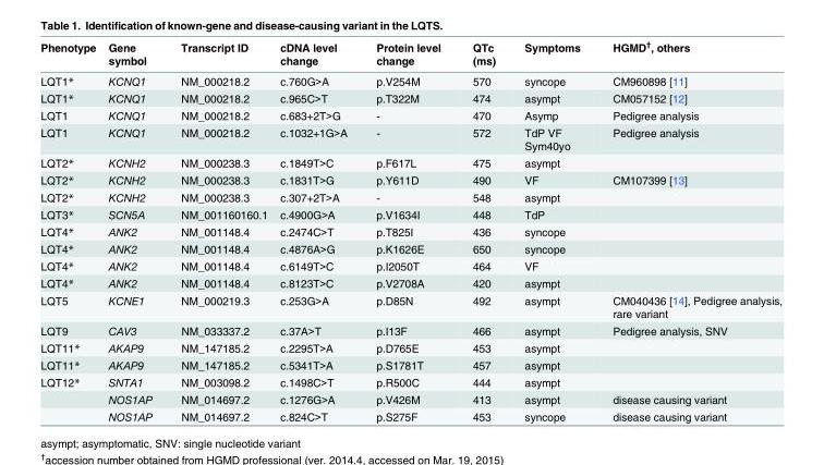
<table><thead><tr><td>Phenotype</td><td>Gene symbol</td><td>Transcript ID</td><td>cDNA level change</td><td>Protein level change</td><td>QTc (ms)</td><td>Symptoms</td><td>HGMD<sup>†</sup>, others</td></tr></thead><tbody><tr><td>LQT1*</td><td>KCNQ1</td><td>NM_000218.2</td><td>c.760G&gt;A</td><td>p.V254M</td><td>570</td><td>syncope</td><td>CM960898 [11]</td></tr><tr><td>LQT1*</td><td>KCNQ1</td><td>NM_000218.2</td><td>c.965C&gt;T</td><td>p.T322M</td><td>474</td><td>asympt</td><td>CM057152 [12]</td></tr><tr><td>LQT1</td><td>KCNQ1</td><td>NM_000218.2</td><td>c.683+2T&gt;G</td><td>-</td><td>470</td><td>Asymp</td><td>Pedigree analysis</td></tr><tr><td>LQT1</td><td>KCNQ1</td><td>NM_000218.2</td><td>c.1032+1G&gt;A</td><td>-</td><td>572</td><td>TdP VF Sym40yo</td><td>Pedigree analysis</td></tr><tr><td>LQT2*</td><td>KCNH2</td><td>NM_000238.3</td><td>c.1849T&gt;C</td><td>p.F617L</td><td>475</td><td>asympt</td><td></td></tr><tr><td>LQT2*</td><td>KCNH2</td><td>NM_000238.3</td><td>c.1831T&gt;G</td><td>p.Y611D</td><td>490</td><td>VF</td><td>CM107399 [13]</td></tr><tr><td>LQT2*</td><td>KCNH2</td><td>NM_000238.3</td><td>c.307+2T&gt;A</td><td>-</td><td>548</td><td>asympt</td><td></td></tr><tr><td>LQT3*</td><td>SCN5A</td><td>NM_001160160.1</td><td>c.4900G&gt;A</td><td>p.V1634I</td><td>448</td><td>TdP</td><td></td></tr><tr><td>LQT4*</td><td>ANK2</td><td>NM_001148.4</td><td>c.2474C&gt;T</td><td>p.T825I</td><td>436</td><td>syncope</td><td></td></tr><tr><td>LQT4*</td><td>ANK2</td><td>NM_001148.4</td><td>c.4876A&gt;G</td><td>p.K1626E</td><td>650</td><td>syncope</td><td></td></tr><tr><td>LQT4*</td><td>ANK2</td><td>NM_001148.4</td><td>c.6149T&gt;C</td><td>p.I2050T</td><td>464</td><td>VF</td><td></td></tr><tr><td>LQT4*</td><td>ANK2</td><td>NM_001148.4</td><td>c.8123T&gt;C</td><td>p.V2708A</td><td>420</td><td>asympt</td><td></td></tr><tr><td>LQT5</td><td>KCNE1</td><td>NM_000219.3</td><td>c.253G&gt;A</td><td>p.D85N</td><td>492</td><td>asympt</td><td>CM040436 [14], Pedigree analysis, rare variant</td></tr><tr><td>LQT9</td><td>CAV3</td><td>NM_033337.2</td><td>c.37A&gt;T</td><td>p.I13F</td><td>466</td><td>asympt</td><td>Pedigree analysis, SNV</td></tr><tr><td>LQT11*</td><td>AKAP9</td><td>NM_147185.2</td><td>c.2295T&gt;A</td><td>p.D765E</td><td>453</td><td>asympt</td><td></td></tr><tr><td>LQT11*</td><td>AKAP9</td><td>NM_147185.2</td><td>c.5341T&gt;A</td><td>p.S1781T</td><td>457</td><td>asympt</td><td></td></tr><tr><td rowspan="3">LQT12*</td><td>SNTA1</td><td>NM_003098.2</td><td>c.1498C&gt;T</td><td>p.R500C</td><td>444</td><td>asympt</td><td></td></tr><tr><td>NOS1AP</td><td>NM_014697.2</td><td>c.1276G&gt;A</td><td>p.V426M</td><td>413</td><td>asympt</td><td>disease causing variant</td></tr><tr><td>NOS1AP</td><td>NM_014697.2</td><td>c.824C&gt;T</td><td>p.S275F</td><td>453</td><td>syncope</td><td>disease causing variant</td></tr></tbody></table>